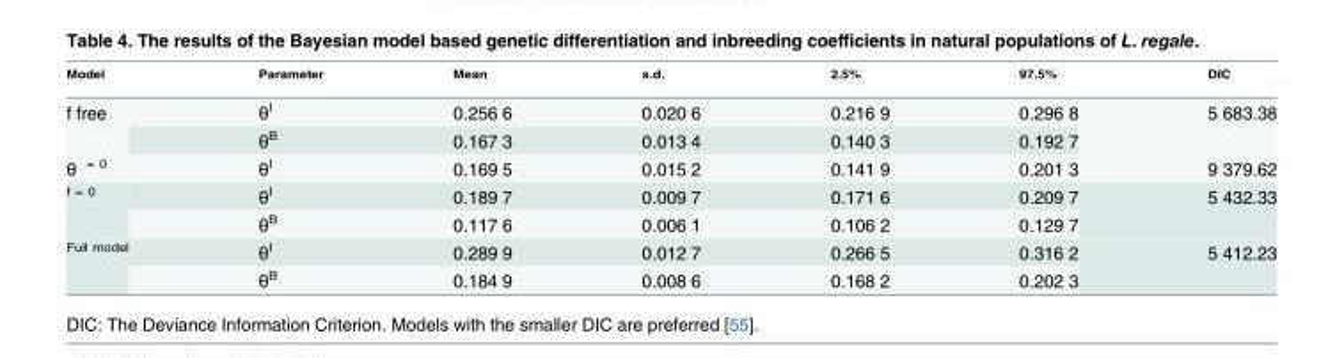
<table><thead><tr><td><sup>Model</sup></td><td><sup>Parameter</sup></td><td><sup>Mean</sup></td><td><sup>s.d.</sup></td><td><sup>2.5%</sup></td><td><sup>97.5%</sup></td><td><sup>DIC</sup></td></tr></thead><tbody><tr><td rowspan="2">f free</td><td>θ<sup>I</sup></td><td>0.256 6</td><td>0.020 6</td><td>0.216 9</td><td>0.296 8</td><td rowspan="2">5 683.38</td></tr><tr><td>θ<sup>B</sup></td><td>0.167 3</td><td>0.013 4</td><td>0.140 3</td><td>0.192 7</td></tr><tr><td>θ <sup>= 0</sup></td><td>θ<sup>I</sup></td><td>0.169 5</td><td>0.015 2</td><td>0.141 9</td><td>0.201 3</td><td>9 379.62</td></tr><tr><td rowspan="2"><sup>f = 0</sup></td><td>θ<sup>I</sup></td><td>0.189 7</td><td>0.009 7</td><td>0.171 6</td><td>0.209 7</td><td rowspan="2">5 432.33</td></tr><tr><td>θ<sup>B</sup></td><td>0.117 6</td><td>0.006 1</td><td>0.106 2</td><td>0.129 7</td></tr><tr><td rowspan="2"><sup>Full model</sup></td><td>θ<sup>I</sup></td><td>0.289 9</td><td>0.012 7</td><td>0.266 5</td><td>0.316 2</td><td rowspan="2">5 412.23</td></tr><tr><td>θ<sup>B</sup></td><td>0.184 9</td><td>0.008 6</td><td>0.168 2</td><td>0.202 3</td></tr></tbody></table>